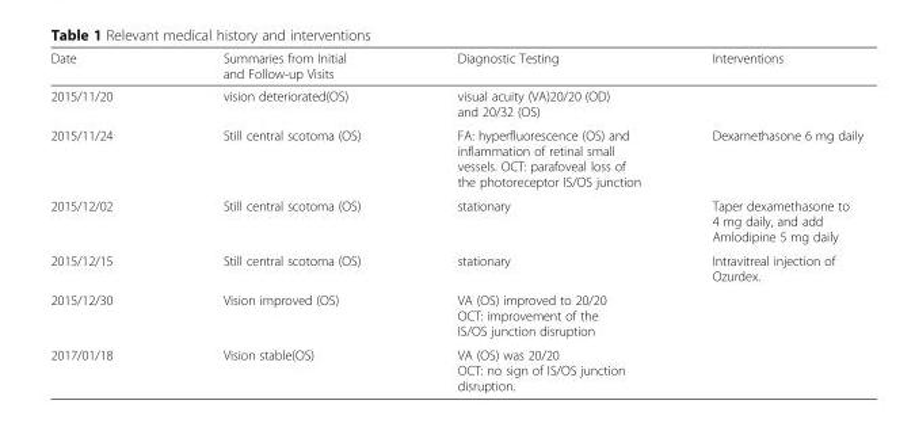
<table><thead><tr><td>Date</td><td>Summaries from Initial and Follow-up Visits</td><td>Diagnostic Testing</td><td>Interventions</td></tr></thead><tbody><tr><td>2015/11/20</td><td>vision deteriorated(OS)</td><td>visual acuity (VA)20/20 (OD) and 20/32 (OS)</td><td></td></tr><tr><td>2015/11/24</td><td>Still central scotoma (OS)</td><td>FA: hyperfluorescence (OS) and inflammation of retinal small vessels. OCT: parafoveal loss of the photoreceptor IS/OS junction</td><td>Dexamethasone 6 mg daily</td></tr><tr><td>2015/12/02</td><td>Still central scotoma (OS)</td><td>stationary</td><td>Taper dexamethasone to 4 mg daily, and add Amlodipine 5 mg daily</td></tr><tr><td>2015/12/15</td><td>Still central scotoma (OS)</td><td>stationary</td><td>Intravitreal injection of Ozurdex.</td></tr><tr><td>2015/12/30</td><td>Vision improved (OS)</td><td>VA (OS) improved to 20/20 OCT: improvement of the IS/OS junction disruption</td><td></td></tr><tr><td>2017/01/18</td><td>Vision stable(OS)</td><td>VA (OS) was 20/20 OCT: no sign of IS/OS junction disruption.</td><td></td></tr></tbody></table>